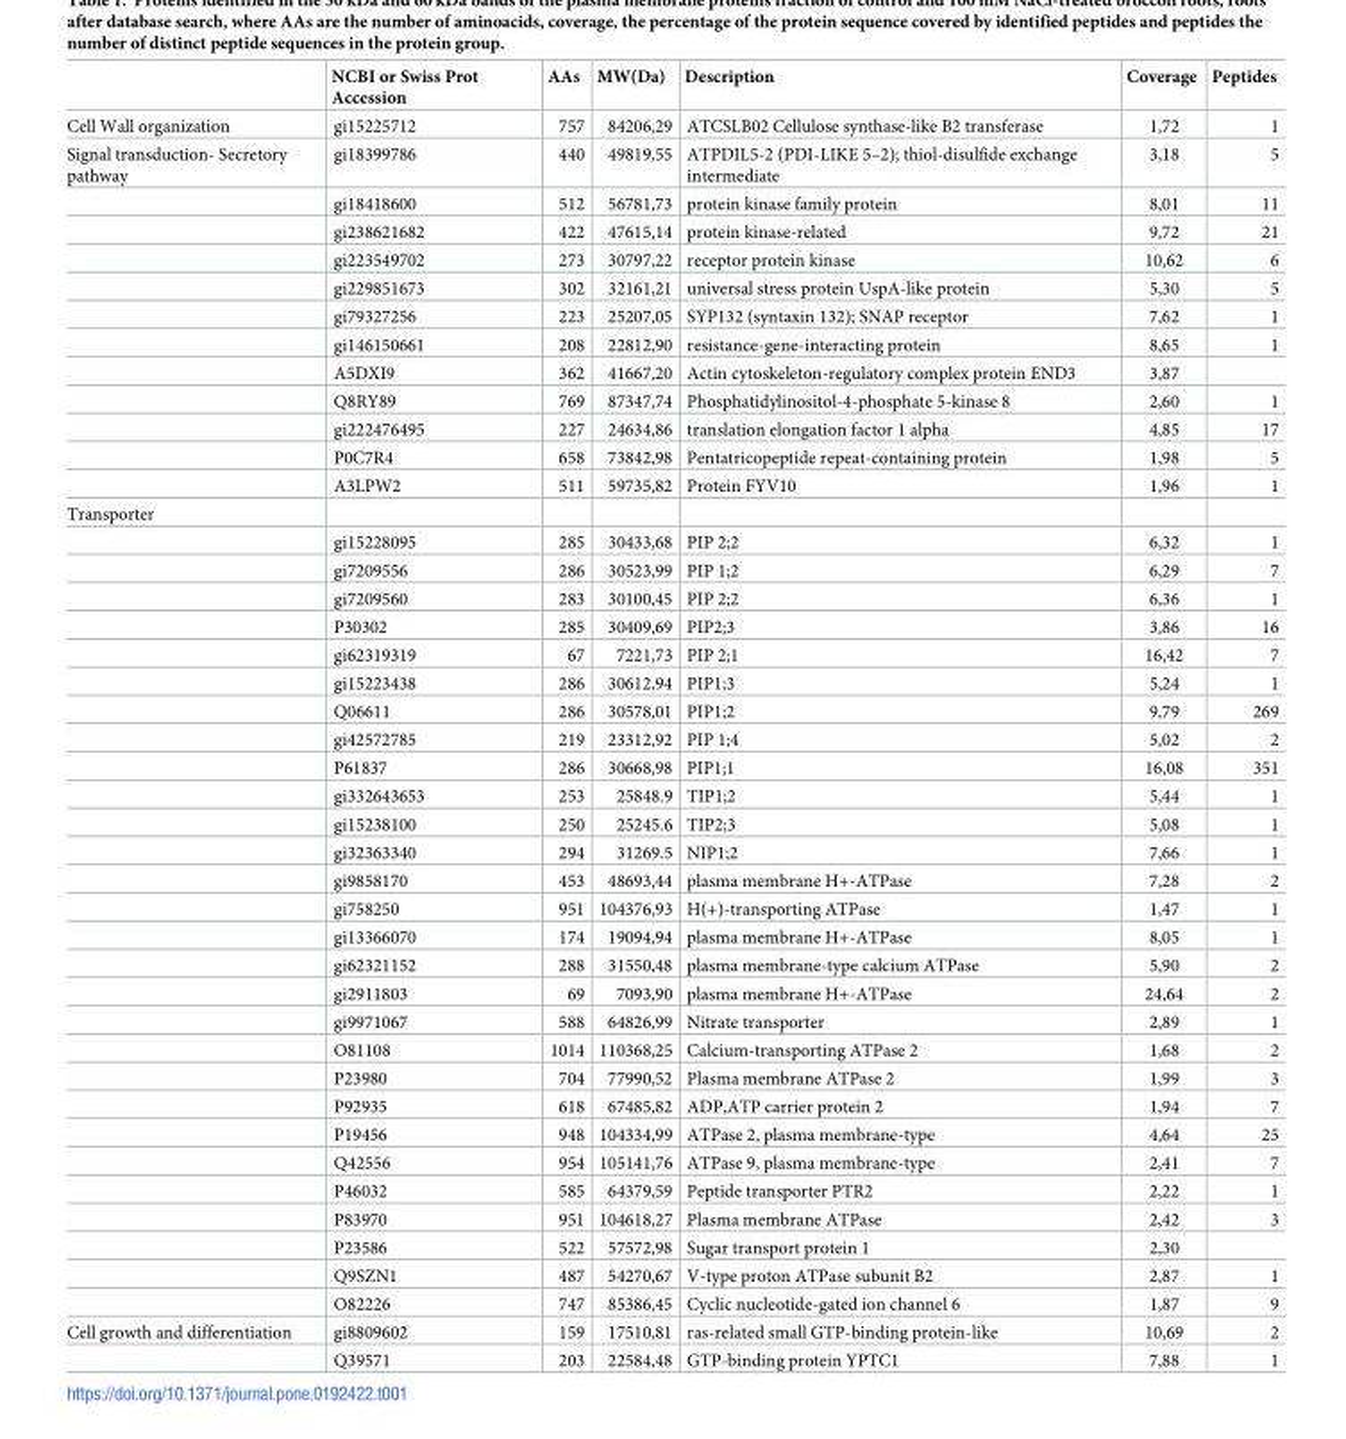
<table><thead><tr><td></td><td>NCBI or Swiss Prot Accession</td><td>AAs</td><td>MW(Da)</td><td>Description</td><td>Coverage</td><td>Peptides</td></tr></thead><tbody><tr><td>Cell Wall organization</td><td>gi15225712</td><td>757</td><td>84206,29</td><td>ATCSLB02 Cellulose synthase-like B2 transferase</td><td>1,72</td><td>1</td></tr><tr><td rowspan="12">Signal transduction- Secretory pathway</td><td>gi18399786</td><td>440</td><td>49819,55</td><td>ATPDIL5-2 (PDI-LIKE 5–2); thiol-disulfide exchange intermediate</td><td>3,18</td><td>5</td></tr><tr><td>gi18418600</td><td>512</td><td>56781,73</td><td>protein kinase family protein</td><td>8,01</td><td>11</td></tr><tr><td>gi238621682</td><td>422</td><td>47615,14</td><td>protein kinase-related</td><td>9,72</td><td>21</td></tr><tr><td>gi223549702</td><td>273</td><td>30797,22</td><td>receptor protein kinase</td><td>10,62</td><td>6</td></tr><tr><td>gi229851673</td><td>302</td><td>32161,21</td><td>universal stress protein UspA-like protein</td><td>5,30</td><td>5</td></tr><tr><td>gi79327256</td><td>223</td><td>25207,05</td><td>SYP132 (syntaxin 132); SNAP receptor</td><td>7,62</td><td>1</td></tr><tr><td>gi146150661</td><td>208</td><td>22812,90</td><td>resistance-gene-interacting protein</td><td>8,65</td><td>1</td></tr><tr><td>A5DXI9</td><td>362</td><td>41667,20</td><td>Actin cytoskeleton-regulatory complex protein END3</td><td>3,87</td><td></td></tr><tr><td>Q8RY89</td><td>769</td><td>87347,74</td><td>Phosphatidylinositol-4-phosphate 5-kinase 8</td><td>2,60</td><td>1</td></tr><tr><td>gi222476495</td><td>227</td><td>24634,86</td><td>translation elongation factor 1 alpha</td><td>4,85</td><td>17</td></tr><tr><td>P0C7R4</td><td>658</td><td>73842,98</td><td>Pentatricopeptide repeat-containing protein</td><td>1,98</td><td>5</td></tr><tr><td>A3LPW2</td><td>511</td><td>59735,82</td><td>Protein FYV10</td><td>1,96</td><td>1</td></tr><tr><td colspan="7">Transporter</td></tr><tr><td></td><td>gi15228095</td><td>285</td><td>30433,68</td><td>PIP 2;2</td><td>6,32</td><td>1</td></tr><tr><td></td><td>gi7209556</td><td>286</td><td>30523,99</td><td>PIP 1;2</td><td>6,29</td><td>7</td></tr><tr><td></td><td>gi7209560</td><td>283</td><td>30100,45</td><td>PIP 2;2</td><td>6,36</td><td>1</td></tr><tr><td></td><td>P30302</td><td>285</td><td>30409,69</td><td>PIP2;3</td><td>3,86</td><td>16</td></tr><tr><td></td><td>gi62319319</td><td>67</td><td>7221,73</td><td>PIP 2;1</td><td>16,42</td><td>7</td></tr><tr><td></td><td>gi15223438</td><td>286</td><td>30612,94</td><td>PIP1;3</td><td>5,24</td><td>1</td></tr><tr><td></td><td>Q06611</td><td>286</td><td>30578,01</td><td>PIP1;2</td><td>9,79</td><td>269</td></tr><tr><td></td><td>gi42572785</td><td>219</td><td>23312,92</td><td>PIP 1;4</td><td>5,02</td><td>2</td></tr><tr><td></td><td>P61837</td><td>286</td><td>30668,98</td><td>PIP1;1</td><td>16,08</td><td>351</td></tr><tr><td></td><td>gi332643653</td><td>253</td><td>25848.9</td><td>TIP1;2</td><td>5,44</td><td>1</td></tr><tr><td></td><td>gi15238100</td><td>250</td><td>25245.6</td><td>TIP2;3</td><td>5,08</td><td>1</td></tr><tr><td></td><td>gi32363340</td><td>294</td><td>31269.5</td><td>NIP1;2</td><td>7,66</td><td>1</td></tr><tr><td></td><td>gi9858170</td><td>453</td><td>48693,44</td><td>plasma membrane H+-ATPase</td><td>7,28</td><td>2</td></tr><tr><td></td><td>gi758250</td><td>951</td><td>104376,93</td><td>H(+)-transporting ATPase</td><td>1,47</td><td>1</td></tr><tr><td></td><td>gi13366070</td><td>174</td><td>19094,94</td><td>plasma membrane H+-ATPase</td><td>8,05</td><td>1</td></tr><tr><td></td><td>gi62321152</td><td>288</td><td>31550,48</td><td>plasma membrane-type calcium ATPase</td><td>5,90</td><td>2</td></tr><tr><td></td><td>gi2911803</td><td>69</td><td>7093,90</td><td>plasma membrane H+-ATPase</td><td>24,64</td><td>2</td></tr><tr><td></td><td>gi9971067</td><td>588</td><td>64826,99</td><td>Nitrate transporter</td><td>2,89</td><td>1</td></tr><tr><td></td><td>O81108</td><td>1014</td><td>110368,25</td><td>Calcium-transporting ATPase 2</td><td>1,68</td><td>2</td></tr><tr><td></td><td>P23980</td><td>704</td><td>77990,52</td><td>Plasma membrane ATPase 2</td><td>1,99</td><td>3</td></tr><tr><td></td><td>P92935</td><td>618</td><td>67485,82</td><td>ADP,ATP carrier protein 2</td><td>1,94</td><td>7</td></tr><tr><td></td><td>P19456</td><td>948</td><td>104334,99</td><td>ATPase 2, plasma membrane-type</td><td>4,64</td><td>25</td></tr><tr><td></td><td>Q42556</td><td>954</td><td>105141,76</td><td>ATPase 9, plasma membrane-type</td><td>2,41</td><td>7</td></tr><tr><td></td><td>P46032</td><td>585</td><td>64379,59</td><td>Peptide transporter PTR2</td><td>2,22</td><td>1</td></tr><tr><td></td><td>P83970</td><td>951</td><td>104618,27</td><td>Plasma membrane ATPase</td><td>2,42</td><td>3</td></tr><tr><td></td><td>P23586</td><td>522</td><td>57572,98</td><td>Sugar transport protein 1</td><td>2,30</td><td></td></tr><tr><td></td><td>Q9SZN1</td><td>487</td><td>54270,67</td><td>V-type proton ATPase subunit B2</td><td>2,87</td><td>1</td></tr><tr><td></td><td>O82226</td><td>747</td><td>85386,45</td><td>Cyclic nucleotide-gated ion channel 6</td><td>1,87</td><td>9</td></tr><tr><td rowspan="2">Cell growth and differentiation</td><td>gi8809602</td><td>159</td><td>17510,81</td><td>ras-related small GTP-binding protein-like</td><td>10,69</td><td>2</td></tr><tr><td>Q39571</td><td>203</td><td>22584,48</td><td>GTP-binding protein YPTC1</td><td>7,88</td><td>1</td></tr></tbody></table>